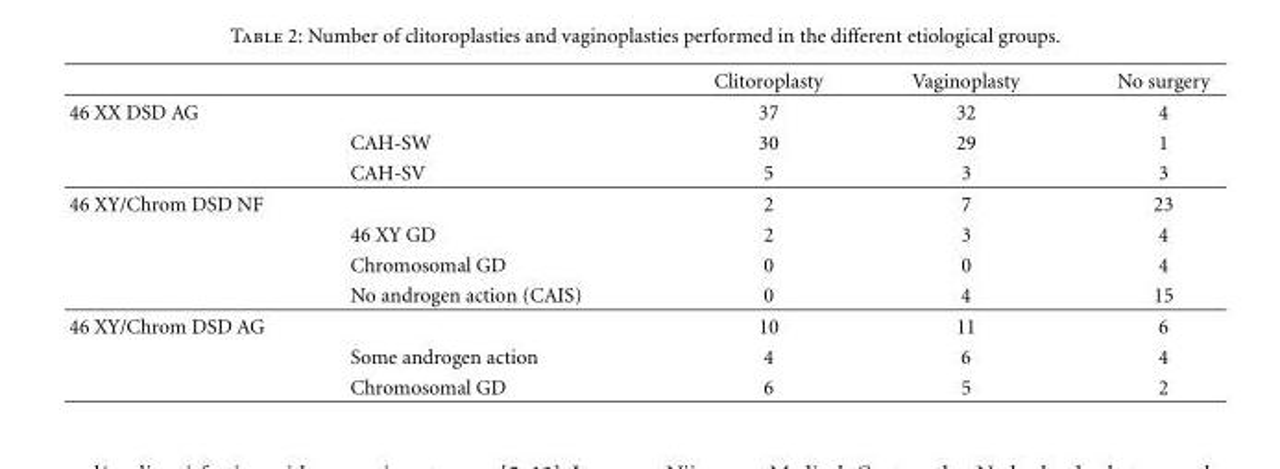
<table><thead><tr><td></td><td></td><td>Clitoroplasty</td><td>Vaginoplasty</td><td>No surgery</td></tr></thead><tbody><tr><td rowspan="3">46 XX DSD AG</td><td></td><td>37</td><td>32</td><td>4</td></tr><tr><td>CAH-SW</td><td>30</td><td>29</td><td>1</td></tr><tr><td>CAH-SV</td><td>5</td><td>3</td><td>3</td></tr><tr><td rowspan="4">46 XY/Chrom DSD NF</td><td></td><td>2</td><td>7</td><td>23</td></tr><tr><td>46 XY GD</td><td>2</td><td>3</td><td>4</td></tr><tr><td>Chromosomal GD</td><td>0</td><td>0</td><td>4</td></tr><tr><td>No androgen action (CAIS)</td><td>0</td><td>4</td><td>15</td></tr><tr><td rowspan="3">46 XY/Chrom DSD AG</td><td></td><td>10</td><td>11</td><td>6</td></tr><tr><td>Some androgen action</td><td>4</td><td>6</td><td>4</td></tr><tr><td>Chromosomal GD</td><td>6</td><td>5</td><td>2</td></tr></tbody></table>